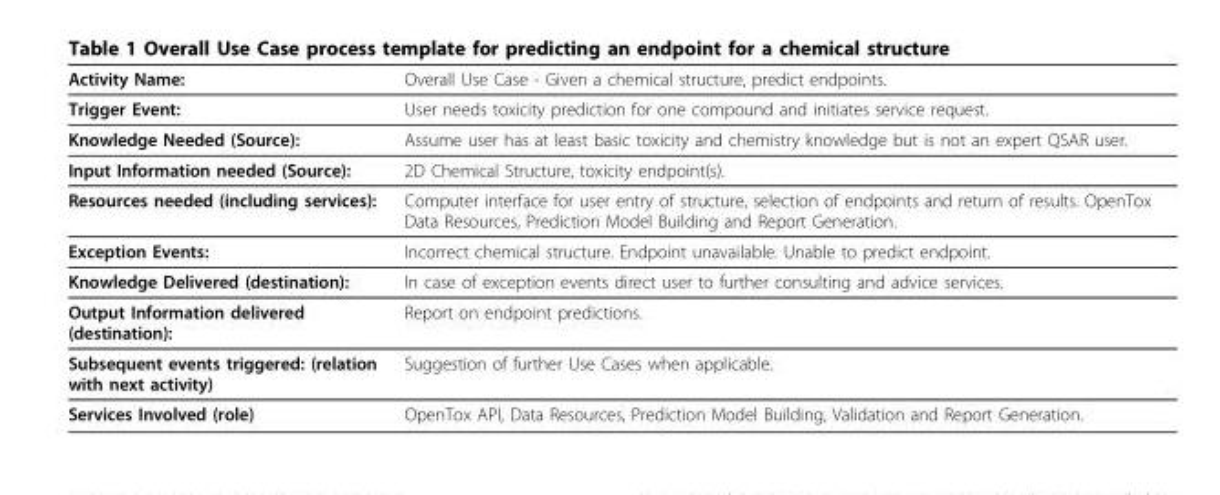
<table><thead><tr><td>Activity Name:</td><td>Overall Use Case - Given a chemical structure, predict endpoints.</td></tr></thead><tbody><tr><td>Trigger Event:</td><td>User needs toxicity prediction for one compound and initiates service request.</td></tr><tr><td>Knowledge Needed (Source):</td><td>Assume user has at least basic toxicity and chemistry knowledge but is not an expert QSAR user.</td></tr><tr><td>Input Information needed (Source):</td><td>2D Chemical Structure, toxicity endpoint(s).</td></tr><tr><td>Resources needed (including services):</td><td>Computer interface for user entry of structure, selection of endpoints and return of results. OpenTox Data Resources, Prediction Model Building and Report Generation.</td></tr><tr><td>Exception Events:</td><td>Incorrect chemical structure. Endpoint unavailable. Unable to predict endpoint.</td></tr><tr><td>Knowledge Delivered (destination):</td><td>In case of exception events direct user to further consulting and advice services.</td></tr><tr><td>Output Information delivered (destination):</td><td>Report on endpoint predictions.</td></tr><tr><td>Subsequent events triggered: (relation with next activity)</td><td>Suggestion of further Use Cases when applicable.</td></tr><tr><td>Services Involved (role)</td><td>OpenTox API, Data Resources, Prediction Model Building, Validation and Report Generation.</td></tr></tbody></table>